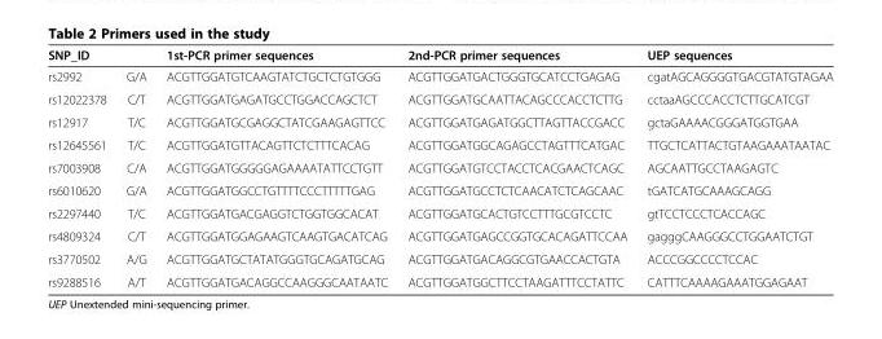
<table><thead><tr><td colspan="2">SNP_ID</td><td rowspan="2">1st-PCR primer sequences ACGTTGGATGTCAAGTATCTGCTCTGTGGG</td><td rowspan="2">2nd-PCR primer sequences ACGTTGGATGACTGGGTGCATCCTGAGAG</td><td rowspan="2">UEP sequences cgatAGCAGGGGTGACGTATGTAGAA</td></tr><tr><td>rs2992</td><td>G/A</td></tr></thead><tbody><tr><td>rs12022378</td><td>C/T</td><td>ACGTTGGATGAGATGCCTGGACCAGCTCT</td><td>ACGTTGGATGCAATTACAGCCCACCTCTTG</td><td>cctaaAGCCCACCTCTTGCATCGT</td></tr><tr><td>rs12917</td><td>T/C</td><td>ACGTTGGATGCGAGGCTATCGAAGAGTTCC</td><td>ACGTTGGATGAGATGGCTTAGTTACCGACC</td><td>gctaGAAAACGGGATGGTGAA</td></tr><tr><td>rs12645561</td><td>T/C</td><td>ACGTTGGATGTTACAGTTCTCTTTCACAG</td><td>ACGTTGGATGGCAGAGCCTAGTTTCATGAC</td><td>TTGCTCATTACTGTAAGAAATAATAC</td></tr><tr><td>rs7003908</td><td>C/A</td><td>ACGTTGGATGGGGGAGAAAATATTCCTGTT</td><td>ACGTTGGATGTCCTACCTCACGAACTCAGC</td><td>AGCAATTGCCTAAGAGTC</td></tr><tr><td>rs6010620</td><td>G/A</td><td>ACGTTGGATGGCCTGTTTTCCCTTTTTGAG</td><td>ACGTTGGATGCCTCTCAACATCTCAGCAAC</td><td>tGATCATGCAAAGCAGG</td></tr><tr><td>rs2297440</td><td>T/C</td><td>ACGTTGGATGACGAGGTCTGGTGGCACAT</td><td>ACGTTGGATGCACTGTCCTTTGCGTCCTC</td><td>gtTCCTCCCTCACCAGC</td></tr><tr><td>rs4809324</td><td>C/T</td><td>ACGTTGGATGGAGAAGTCAAGTGACATCAG</td><td>ACGTTGGATGAGCCGGTGCACAGATTCCAA</td><td>gagggCAAGGGCCTGGAATCTGT</td></tr><tr><td>rs3770502</td><td>A/G</td><td>ACGTTGGATGCTATATGGGTGCAGATGCAG</td><td>ACGTTGGATGACAGGCGTGAACCACTGTA</td><td>ACCCGGCCCCTCCAC</td></tr><tr><td>rs9288516</td><td>A/T</td><td>ACGTTGGATGACAGGCCAAGGGCAATAATC</td><td>ACGTTGGATGGCTTCCTAAGATTTCCTATTC</td><td>CATTTCAAAAGAAATGGAGAAT</td></tr></tbody></table>